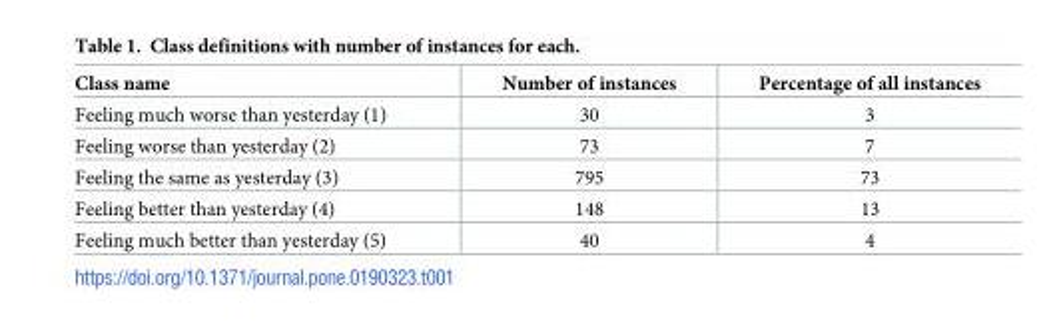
<table><thead><tr><td>Class name</td><td>Number of instances</td><td>Percentage of all instances</td></tr></thead><tbody><tr><td>Feeling much worse than yesterday (1)</td><td>30</td><td>3</td></tr><tr><td>Feeling worse than yesterday (2)</td><td>73</td><td>7</td></tr><tr><td>Feeling the same as yesterday (3)</td><td>795</td><td>73</td></tr><tr><td>Feeling better than yesterday (4)</td><td>148</td><td>13</td></tr><tr><td>Feeling much better than yesterday (5)</td><td>40</td><td>4</td></tr></tbody></table>